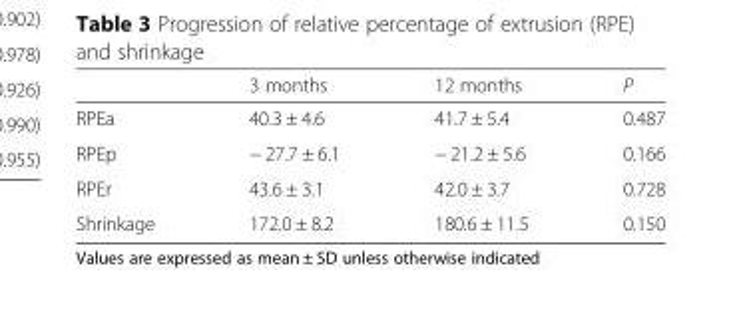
<table><thead><tr><td></td><td>3 months</td><td>12 months</td><td>P</td></tr></thead><tbody><tr><td>RPEa</td><td>40.3 ± 4.6</td><td>41.7 ± 5.4</td><td>0.487</td></tr><tr><td>RPEp</td><td>− 27.7 ± 6.1</td><td>− 21.2 ± 5.6</td><td>0.166</td></tr><tr><td>RPEr</td><td>43.6 ± 3.1</td><td>42.0 ± 3.7</td><td>0.728</td></tr><tr><td>Shrinkage</td><td>172.0 ± 8.2</td><td>180.6 ± 11.5</td><td>0.150</td></tr></tbody></table>